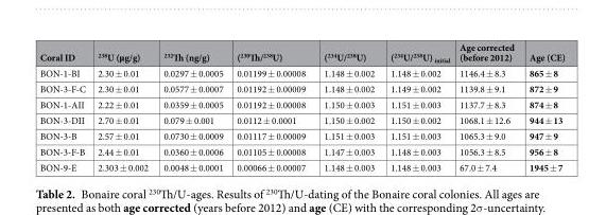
<table><thead><tr><td>Coral ID</td><td><sup>238</sup>U (µg/g)</td><td><sup>232</sup>Th (ng/g)</td><td>(<sup>230</sup>Th/<sup>238</sup>U)</td><td>(<sup>234</sup>U/<sup>238</sup>U)</td><td>(<sup>234</sup>U/<sup>238</sup>U) <sub>initial</sub></td><td>Age corrected (before 2012)</td><td>Age (CE)</td></tr></thead><tbody><tr><td>BON-1-BI</td><td>2.30 ± 0.01</td><td>0.0297 ± 0.0005</td><td>0.01199 ± 0.00008</td><td>1.148 ± 0.002</td><td>1.148 ± 0.002</td><td>1146.4 ± 8.3</td><td>865 ± 8</td></tr><tr><td>BON-3-F-C</td><td>2.30 ± 0.01</td><td>0.0577 ± 0.0007</td><td>0.01192 ± 0.00009</td><td>1.148 ± 0.002</td><td>1.149 ± 0.002</td><td>1139.8 ± 9.1</td><td>872 ± 9</td></tr><tr><td>BON-1-AII</td><td>2.22 ± 0.01</td><td>0.0359 ± 0.0005</td><td>0.01192 ± 0.00008</td><td>1.150 ± 0.003</td><td>1.151 ± 0.003</td><td>1137.7 ± 8.3</td><td>874 ± 8</td></tr><tr><td>BON-3-DII</td><td>2.70 ± 0.01</td><td>0.079 ± 0.001</td><td>0.0112 ± 0.0001</td><td>1.150 ± 0.002</td><td>1.150 ± 0.002</td><td>1068.1 ± 12.6</td><td>944 ± 13</td></tr><tr><td>BON-3-B</td><td>2.57 ± 0.01</td><td>0.0730 ± 0.0009</td><td>0.01117 ± 0.00009</td><td>1.151 ± 0.003</td><td>1.151 ± 0.003</td><td>1065.3 ± 9.0</td><td>947 ± 9</td></tr><tr><td>BON-3-F-B</td><td>2.44 ± 0.01</td><td>0.0360 ± 0.0006</td><td>0.01105 ± 0.00008</td><td>1.147 ± 0.003</td><td>1.148 ± 0.003</td><td>1056.3 ± 8.5</td><td>956 ± 8</td></tr><tr><td>BON-9-E</td><td>2.303 ± 0.002</td><td>0.0048 ± 0.0001</td><td>0.00066 ± 0.00007</td><td>1.148 ± 0.003</td><td>1.148 ± 0.003</td><td>67.0 ± 7.4</td><td>1945 ± 7</td></tr></tbody></table>